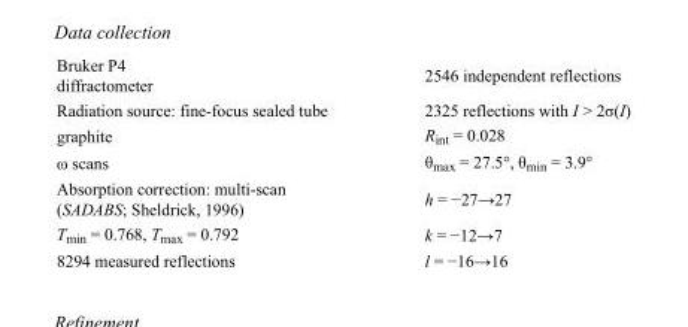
<table><tbody><tr><td>Bruker P4 diffractometer</td><td>2546 independent reflections</td></tr><tr><td>Radiation source: fine-focus sealed tube</td><td>2325 reflections with I &gt; 2σ(I)</td></tr><tr><td>graphite</td><td>R<sub>int</sub> = 0.028</td></tr><tr><td>ω scans</td><td>θ<sub>max</sub> = 27.5°, θ<sub>min</sub> = 3.9°</td></tr><tr><td>Absorption correction: multi-scan (SADABS; Sheldrick, 1996)</td><td>h = −27→27</td></tr><tr><td>T<sub>min</sub> = 0.768, T<sub>max</sub> = 0.792</td><td>k = −12→7</td></tr><tr><td>8294 measured reflections</td><td>l = −16→16</td></tr></tbody></table>